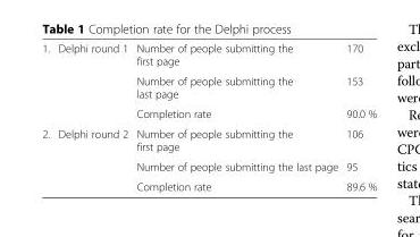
<table><tbody><tr><td rowspan="3">1.</td><td rowspan="3">Delphi round 1</td><td>Number of people submitting the first page</td><td>170</td></tr><tr><td>Number of people submitting the last page</td><td>153</td></tr><tr><td>Completion rate</td><td>90.0 %</td></tr><tr><td rowspan="3">2.</td><td rowspan="3">Delphi round 2</td><td>Number of people submitting the first page</td><td>106</td></tr><tr><td>Number of people submitting the last page</td><td>95</td></tr><tr><td>Completion rate</td><td>89.6 %</td></tr></tbody></table>